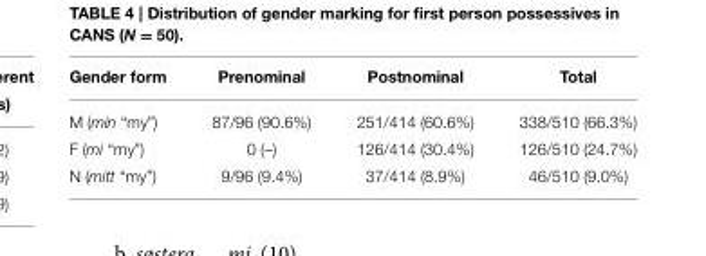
<table><thead><tr><td>Gender form</td><td>Prenominal</td><td>Postnominal</td><td>Total</td></tr></thead><tbody><tr><td>M (min “my”)</td><td>87/96 (90.6%)</td><td>251/414 (60.6%)</td><td>338/510 (66.3%)</td></tr><tr><td>F (mi “my”)</td><td>0 (–)</td><td>126/414 (30.4%)</td><td>126/510 (24.7%)</td></tr><tr><td>N (mitt “my”)</td><td>9/96 (9.4%)</td><td>37/414 (8.9%)</td><td>46/510 (9.0%)</td></tr></tbody></table>